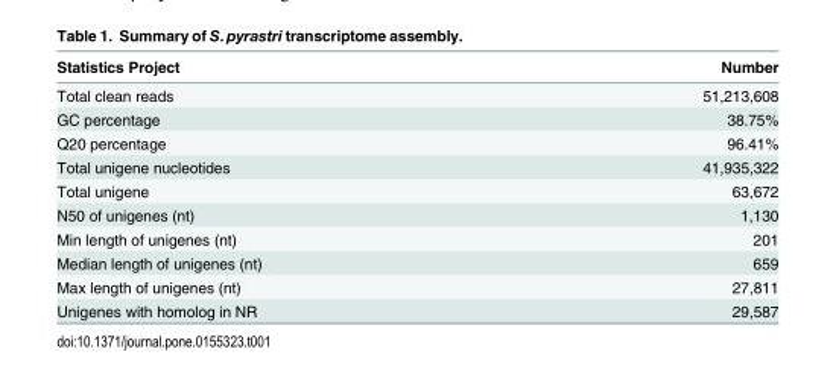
<table><thead><tr><td>Statistics Project</td><td>Number</td></tr></thead><tbody><tr><td>Total clean reads</td><td>51,213,608</td></tr><tr><td>GC percentage</td><td>38.75%</td></tr><tr><td>Q20 percentage</td><td>96.41%</td></tr><tr><td>Total unigene nucleotides</td><td>41,935,322</td></tr><tr><td>Total unigene</td><td>63,672</td></tr><tr><td>N50 of unigenes (nt)</td><td>1,130</td></tr><tr><td>Min length of unigenes (nt)</td><td>201</td></tr><tr><td>Median length of unigenes (nt)</td><td>659</td></tr><tr><td>Max length of unigenes (nt)</td><td>27,811</td></tr><tr><td>Unigenes with homolog in NR</td><td>29,587</td></tr></tbody></table>